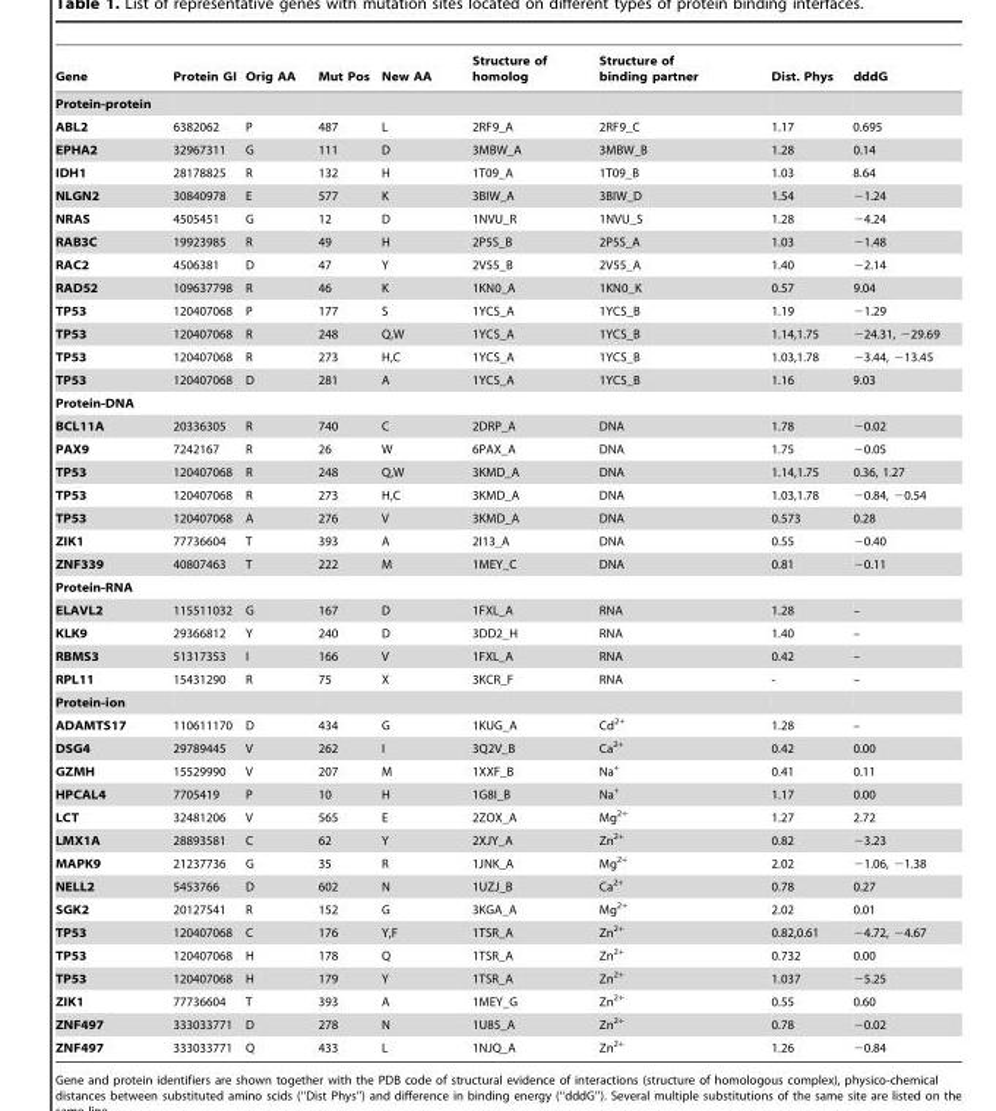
<table><thead><tr><td>Gene</td><td>Protein GI</td><td>Orig AA</td><td>Mut Pos</td><td>New AA</td><td>Structure of homolog</td><td>Structure of binding partner</td><td>Dist. Phys</td><td>dddG</td></tr></thead><tbody><tr><td colspan="9">Protein-protein</td></tr><tr><td>ABL2</td><td>6382062</td><td>P</td><td>487</td><td>L</td><td>2RF9_A</td><td>2RF9_C</td><td>1.17</td><td>0.695</td></tr><tr><td>EPHA2</td><td>32967311</td><td>G</td><td>111</td><td>D</td><td>3MBW_A</td><td>3MBW_B</td><td>1.28</td><td>0.14</td></tr><tr><td>IDH1</td><td>28178825</td><td>R</td><td>132</td><td>H</td><td>1T09_A</td><td>1T09_B</td><td>1.03</td><td>8.64</td></tr><tr><td>NLGN2</td><td>30840978</td><td>E</td><td>577</td><td>K</td><td>3BIW_A</td><td>3BIW_D</td><td>1.54</td><td>−1.24</td></tr><tr><td>NRAS</td><td>4505451</td><td>G</td><td>12</td><td>D</td><td>1NVU_R</td><td>1NVU_S</td><td>1.28</td><td>−4.24</td></tr><tr><td>RAB3C</td><td>19923985</td><td>R</td><td>49</td><td>H</td><td>2P5S_B</td><td>2P5S_A</td><td>1.03</td><td>−1.48</td></tr><tr><td>RAC2</td><td>4506381</td><td>D</td><td>47</td><td>Y</td><td>2V55_B</td><td>2V55_A</td><td>1.40</td><td>−2.14</td></tr><tr><td>RAD52</td><td>109637798</td><td>R</td><td>46</td><td>K</td><td>1KN0_A</td><td>1KN0_K</td><td>0.57</td><td>9.04</td></tr><tr><td>TP53</td><td>120407068</td><td>P</td><td>177</td><td>S</td><td>1YCS_A</td><td>1YCS_B</td><td>1.19</td><td>−1.29</td></tr><tr><td>TP53</td><td>120407068</td><td>R</td><td>248</td><td>Q,W</td><td>1YCS_A</td><td>1YCS_B</td><td>1.14,1.75</td><td>−24.31, −29.69</td></tr><tr><td>TP53</td><td>120407068</td><td>R</td><td>273</td><td>H,C</td><td>1YCS_A</td><td>1YCS_B</td><td>1.03,1.78</td><td>−3.44, −13.45</td></tr><tr><td>TP53</td><td>120407068</td><td>D</td><td>281</td><td>A</td><td>1YCS_A</td><td>1YCS_B</td><td>1.16</td><td>9.03</td></tr><tr><td colspan="9">Protein-DNA</td></tr><tr><td>BCL11A</td><td>20336305</td><td>R</td><td>740</td><td>C</td><td>2DRP_A</td><td>DNA</td><td>1.78</td><td>−0.02</td></tr><tr><td>PAX9</td><td>7242167</td><td>R</td><td>26</td><td>W</td><td>6PAX_A</td><td>DNA</td><td>1.75</td><td>−0.05</td></tr><tr><td>TP53</td><td>120407068</td><td>R</td><td>248</td><td>Q,W</td><td>3KMD_A</td><td>DNA</td><td>1.14,1.75</td><td>0.36, 1.27</td></tr><tr><td>TP53</td><td>120407068</td><td>R</td><td>273</td><td>H,C</td><td>3KMD_A</td><td>DNA</td><td>1.03,1.78</td><td>−0.84, −0.54</td></tr><tr><td>TP53</td><td>120407068</td><td>A</td><td>276</td><td>V</td><td>3KMD_A</td><td>DNA</td><td>0.573</td><td>0.28</td></tr><tr><td>ZIK1</td><td>77736604</td><td>T</td><td>393</td><td>A</td><td>2I13_A</td><td>DNA</td><td>0.55</td><td>−0.40</td></tr><tr><td>ZNF339</td><td>40807463</td><td>T</td><td>222</td><td>M</td><td>1MEY_C</td><td>DNA</td><td>0.81</td><td>−0.11</td></tr><tr><td colspan="9">Protein-RNA</td></tr><tr><td>ELAVL2</td><td>115511032</td><td>G</td><td>167</td><td>D</td><td>1FXL_A</td><td>RNA</td><td>1.28</td><td>–</td></tr><tr><td>KLK9</td><td>29366812</td><td>Y</td><td>240</td><td>D</td><td>3DD2_H</td><td>RNA</td><td>1.40</td><td>–</td></tr><tr><td>RBMS3</td><td>51317353</td><td>I</td><td>166</td><td>V</td><td>1FXL_A</td><td>RNA</td><td>0.42</td><td>–</td></tr><tr><td>RPL11</td><td>15431290</td><td>R</td><td>75</td><td>X</td><td>3KCR_F</td><td>RNA</td><td>-</td><td>–</td></tr><tr><td colspan="9">Protein-ion</td></tr><tr><td>ADAMTS17</td><td>110611170</td><td>D</td><td>434</td><td>G</td><td>1KUG_A</td><td>Cd<sup>2+</sup></td><td>1.28</td><td>–</td></tr><tr><td>DSG4</td><td>29789445</td><td>V</td><td>262</td><td>I</td><td>3Q2V_B</td><td>Ca<sup>2+</sup></td><td>0.42</td><td>0.00</td></tr><tr><td>GZMH</td><td>15529990</td><td>V</td><td>207</td><td>M</td><td>1XXF_B</td><td>Na<sup>+</sup></td><td>0.41</td><td>0.11</td></tr><tr><td>HPCAL4</td><td>7705419</td><td>P</td><td>10</td><td>H</td><td>1G8I_B</td><td>Na<sup>+</sup></td><td>1.17</td><td>0.00</td></tr><tr><td>LCT</td><td>32481206</td><td>V</td><td>565</td><td>E</td><td>2ZOX_A</td><td>Mg<sup>2+</sup></td><td>1.27</td><td>2.72</td></tr><tr><td>LMX1A</td><td>28893581</td><td>C</td><td>62</td><td>Y</td><td>2XJY_A</td><td>Zn<sup>2+</sup></td><td>0.82</td><td>−3.23</td></tr><tr><td>MAPK9</td><td>21237736</td><td>G</td><td>35</td><td>R</td><td>1JNK_A</td><td>Mg<sup>2+</sup></td><td>2.02</td><td>−1.06, −1.38</td></tr><tr><td>NELL2</td><td>5453766</td><td>D</td><td>602</td><td>N</td><td>1UZJ_B</td><td>Ca<sup>2+</sup></td><td>0.78</td><td>0.27</td></tr><tr><td>SGK2</td><td>20127541</td><td>R</td><td>152</td><td>G</td><td>3KGA_A</td><td>Mg<sup>2+</sup></td><td>2.02</td><td>0.01</td></tr><tr><td>TP53</td><td>120407068</td><td>C</td><td>176</td><td>Y,F</td><td>1TSR_A</td><td>Zn<sup>2+</sup></td><td>0.82,0.61</td><td>−4.72, −4.67</td></tr><tr><td>TP53</td><td>120407068</td><td>H</td><td>178</td><td>Q</td><td>1TSR_A</td><td>Zn<sup>2+</sup></td><td>0.732</td><td>0.00</td></tr><tr><td>TP53</td><td>120407068</td><td>H</td><td>179</td><td>Y</td><td>1TSR_A</td><td>Zn<sup>2+</sup></td><td>1.037</td><td>−5.25</td></tr><tr><td>ZIK1</td><td>77736604</td><td>T</td><td>393</td><td>A</td><td>1MEY_G</td><td>Zn<sup>2+</sup></td><td>0.55</td><td>0.60</td></tr><tr><td>ZNF497</td><td>333033771</td><td>D</td><td>278</td><td>N</td><td>1U85_A</td><td>Zn<sup>2+</sup></td><td>0.78</td><td>−0.02</td></tr><tr><td>ZNF497</td><td>333033771</td><td>Q</td><td>433</td><td>L</td><td>1NJQ_A</td><td>Zn<sup>2+</sup></td><td>1.26</td><td>−0.84</td></tr></tbody></table>